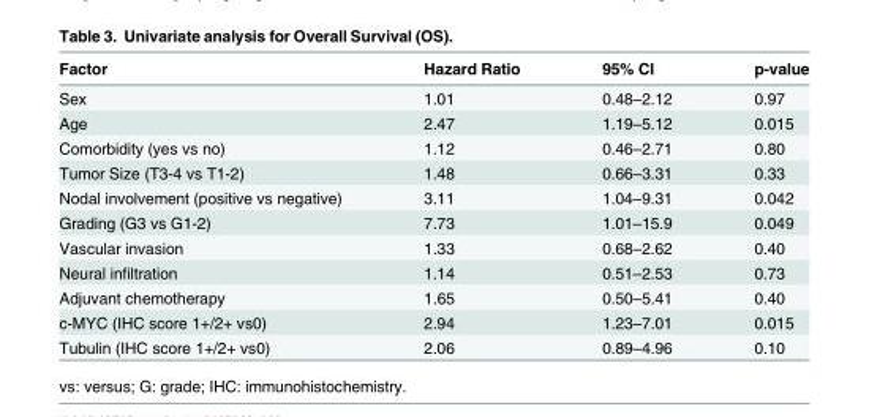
<table><thead><tr><td>Factor</td><td>Hazard Ratio</td><td>95% CI</td><td>p-value</td></tr></thead><tbody><tr><td>Sex</td><td>1.01</td><td>0.48–2.12</td><td>0.97</td></tr><tr><td>Age</td><td>2.47</td><td>1.19–5.12</td><td>0.015</td></tr><tr><td>Comorbidity (yes vs no)</td><td>1.12</td><td>0.46–2.71</td><td>0.80</td></tr><tr><td>Tumor Size (T3-4 vs T1-2)</td><td>1.48</td><td>0.66–3.31</td><td>0.33</td></tr><tr><td>Nodal involvement (positive vs negative)</td><td>3.11</td><td>1.04–9.31</td><td>0.042</td></tr><tr><td>Grading (G3 vs G1-2)</td><td>7.73</td><td>1.01–15.9</td><td>0.049</td></tr><tr><td>Vascular invasion</td><td>1.33</td><td>0.68–2.62</td><td>0.40</td></tr><tr><td>Neural infiltration</td><td>1.14</td><td>0.51–2.53</td><td>0.73</td></tr><tr><td>Adjuvant chemotherapy</td><td>1.65</td><td>0.50–5.41</td><td>0.40</td></tr><tr><td>c-MYC (IHC score 1+/2+ vs0)</td><td>2.94</td><td>1.23–7.01</td><td>0.015</td></tr><tr><td>Tubulin (IHC score 1+/2+ vs0)</td><td>2.06</td><td>0.89–4.96</td><td>0.10</td></tr></tbody></table>